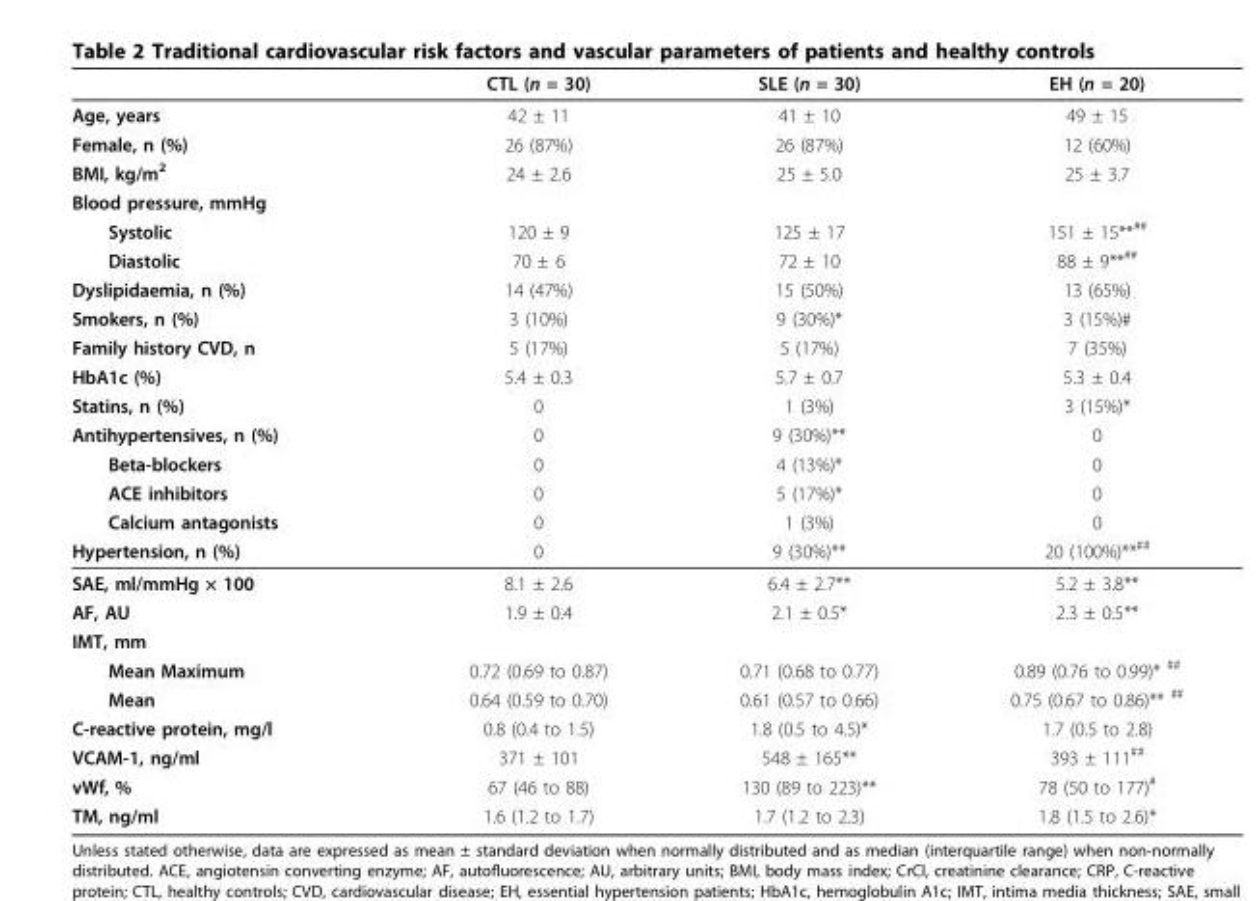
<table><thead><tr><td></td><td>CTL (n = 30)</td><td>SLE (n = 30)</td><td>EH (n = 20)</td></tr></thead><tbody><tr><td>Age, years</td><td>42 ± 11</td><td>41 ± 10</td><td>49 ± 15</td></tr><tr><td>Female, n (%)</td><td>26 (87%)</td><td>26 (87%)</td><td>12 (60%)</td></tr><tr><td>BMI, kg/m<sup>2</sup></td><td>24 ± 2.6</td><td>25 ± 5.0</td><td>25 ± 3.7</td></tr><tr><td colspan="4">Blood pressure, mmHg</td></tr><tr><td>Systolic</td><td>120 ± 9</td><td>125 ± 17</td><td>151 ± 15**<sup>##</sup></td></tr><tr><td>Diastolic</td><td>70 ± 6</td><td>72 ± 10</td><td>88 ± 9**<sup>##</sup></td></tr><tr><td>Dyslipidaemia, n (%)</td><td>14 (47%)</td><td>15 (50%)</td><td>13 (65%)</td></tr><tr><td>Smokers, n (%)</td><td>3 (10%)</td><td>9 (30%)*</td><td>3 (15%)#</td></tr><tr><td>Family history CVD, n</td><td>5 (17%)</td><td>5 (17%)</td><td>7 (35%)</td></tr><tr><td>HbA1c (%)</td><td>5.4 ± 0.3</td><td>5.7 ± 0.7</td><td>5.3 ± 0.4</td></tr><tr><td>Statins, n (%)</td><td>0</td><td>1 (3%)</td><td>3 (15%)*</td></tr><tr><td>Antihypertensives, n (%)</td><td>0</td><td>9 (30%)**</td><td>0</td></tr><tr><td>Beta-blockers</td><td>0</td><td>4 (13%)*</td><td>0</td></tr><tr><td>ACE inhibitors</td><td>0</td><td>5 (17%)*</td><td>0</td></tr><tr><td>Calcium antagonists</td><td>0</td><td>1 (3%)</td><td>0</td></tr><tr><td>Hypertension, n (%)</td><td>0</td><td>9 (30%)**</td><td>20 (100%)**<sup>##</sup></td></tr><tr><td>SAE, ml/mmHg × 100</td><td>8.1 ± 2.6</td><td>6.4 ± 2.7**</td><td>5.2 ± 3.8**</td></tr><tr><td>AF, AU</td><td>1.9 ± 0.4</td><td>2.1 ± 0.5*</td><td>2.3 ± 0.5**</td></tr><tr><td colspan="4">IMT, mm</td></tr><tr><td>Mean Maximum</td><td>0.72 (0.69 to 0.87)</td><td>0.71 (0.68 to 0.77)</td><td>0.89 (0.76 to 0.99)* <sup>##</sup></td></tr><tr><td>Mean</td><td>0.64 (0.59 to 0.70)</td><td>0.61 (0.57 to 0.66)</td><td>0.75 (0.67 to 0.86)** <sup>##</sup></td></tr><tr><td>C-reactive protein, mg/l</td><td>0.8 (0.4 to 1.5)</td><td>1.8 (0.5 to 4.5)*</td><td>1.7 (0.5 to 2.8)</td></tr><tr><td>VCAM-1, ng/ml</td><td>371 ± 101</td><td>548 ± 165**</td><td>393 ± 111<sup>##</sup></td></tr><tr><td>vWf, %</td><td>67 (46 to 88)</td><td>130 (89 to 223)**</td><td>78 (50 to 177)<sup>#</sup></td></tr><tr><td>TM, ng/ml</td><td>1.6 (1.2 to 1.7)</td><td>1.7 (1.2 to 2.3)</td><td>1.8 (1.5 to 2.6)*</td></tr></tbody></table>